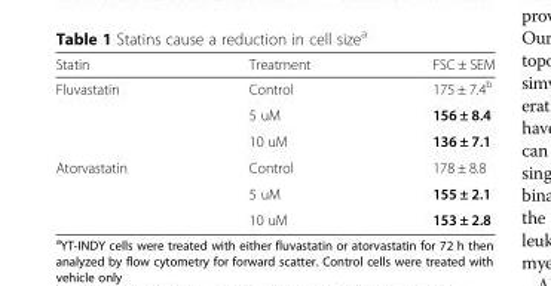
<table><thead><tr><td>Statin</td><td>Treatment</td><td>FSC ± SEM</td></tr></thead><tbody><tr><td rowspan="3">Fluvastatin</td><td>Control</td><td>175 ± 7.4<sup>b</sup></td></tr><tr><td>5 uM</td><td>156 ± 8.4</td></tr><tr><td>10 uM</td><td>136 ± 7.1</td></tr><tr><td rowspan="3">Atorvastatin</td><td>Control</td><td>178 ± 8.8</td></tr><tr><td>5 uM</td><td>155 ± 2.1</td></tr><tr><td>10 uM</td><td>153 ± 2.8</td></tr></tbody></table>